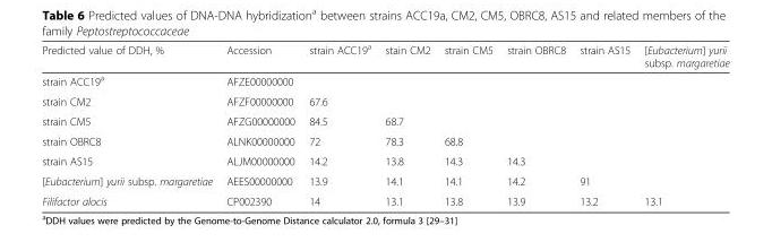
<table><thead><tr><td>Predicted value of DDH, %</td><td>Accession</td><td>strain ACC19<sup>a</sup></td><td>stain CM2</td><td>strain CM5</td><td>strain OBRC8</td><td>strain AS15</td><td>[Eubacterium] yurii subsp. margaretiae</td></tr></thead><tbody><tr><td>strain ACC19<sup>a</sup></td><td>AFZE00000000</td><td></td><td></td><td></td><td></td><td></td><td></td></tr><tr><td>strain CM2</td><td>AFZF00000000</td><td>67.6</td><td></td><td></td><td></td><td></td><td></td></tr><tr><td>strain CM5</td><td>AFZG00000000</td><td>84.5</td><td>68.7</td><td></td><td></td><td></td><td></td></tr><tr><td>strain OBRC8</td><td>ALNK00000000</td><td>72</td><td>78.3</td><td>68.8</td><td></td><td></td><td></td></tr><tr><td>strain AS15</td><td>ALJM00000000</td><td>14.2</td><td>13.8</td><td>14.3</td><td>14.3</td><td></td><td></td></tr><tr><td>[Eubacterium] yurii subsp. margaretiae</td><td>AEES00000000</td><td>13.9</td><td>14.1</td><td>14.1</td><td>14.2</td><td>91</td><td></td></tr><tr><td>Filifactor alocis</td><td>CP002390</td><td>14</td><td>13.1</td><td>13.8</td><td>13.9</td><td>13.2</td><td>13.1</td></tr></tbody></table>